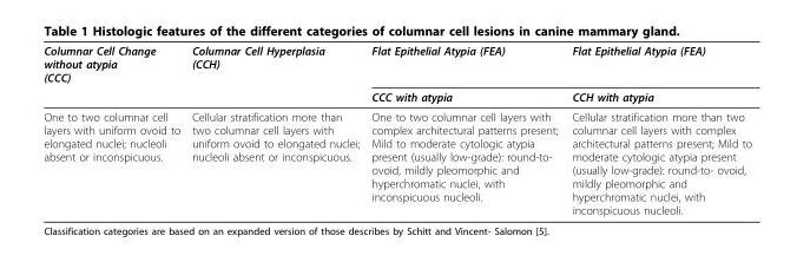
<table><thead><tr><td rowspan="2">Columnar Cell Change without atypia (CCC)</td><td rowspan="2">Columnar Cell Hyperplasia (CCH)</td><td rowspan="2">Flat Epithelial Atypia (FEA) CCC with atypia</td><td rowspan="2">Flat Epithelial Atypia (FEA) CCH with atypia</td></tr><tr></tr></thead><tbody><tr><td>One to two columnar cell layers with uniform ovoid to elongated nuclei; nucleoli absent or inconspicuous.</td><td>Cellular stratification more than two columnar cell layers with uniform ovoid to elongated nuclei; nucleoli absent or inconspicuous.</td><td>One to two columnar cell layers with complex architectural patterns present; Mild to moderate cytologic atypia present (usually low-grade): round-to- ovoid, mildly pleomorphic and hyperchromatic nuclei, with inconspicuous nucleoli.</td><td>Cellular stratification more than two columnar cell layers with complex architectural patterns present; Mild to moderate cytologic atypia present (usually low-grade): round-to- ovoid, mildly pleomorphic and hyperchromatic nuclei, with inconspicuous nucleoli.</td></tr></tbody></table>